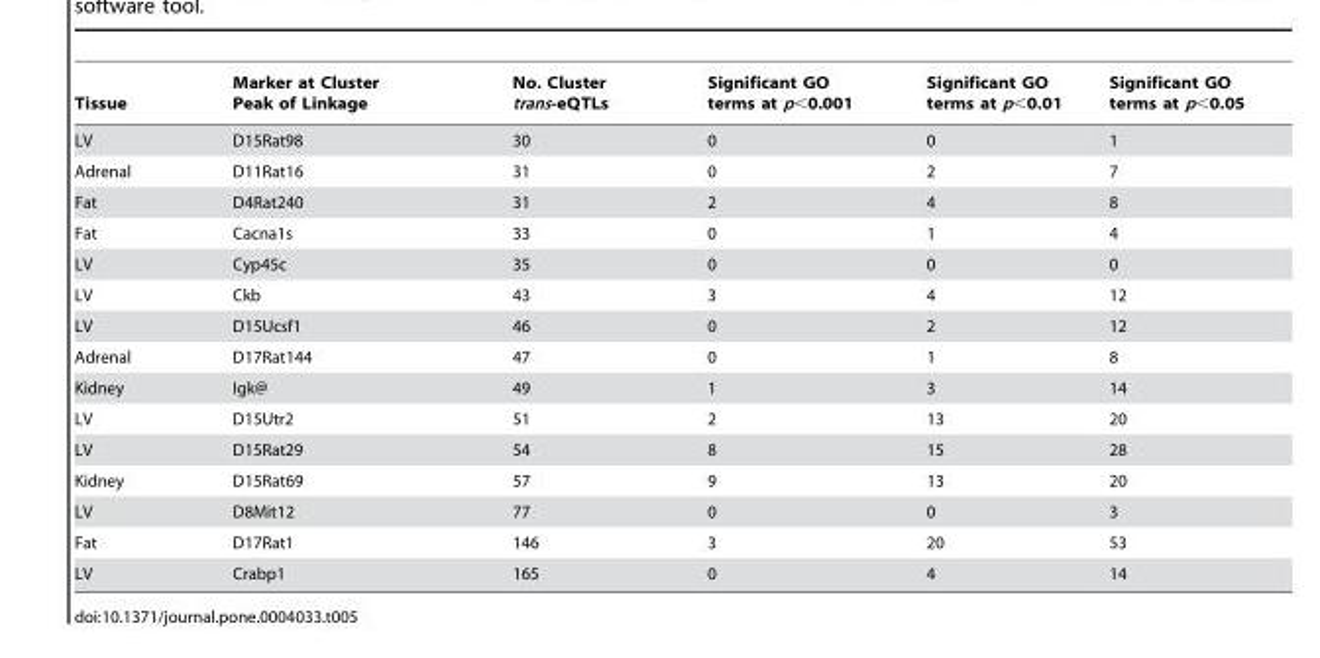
<table><thead><tr><td>Tissue</td><td>Marker at Cluster Peak of Linkage</td><td>No. Cluster trans-eQTLs</td><td>Significant GO terms at p&lt;0.001</td><td>Significant GO terms at p&lt;0.01</td><td>Significant GO terms at p&lt;0.05</td></tr></thead><tbody><tr><td>LV</td><td>D15Rat98</td><td>30</td><td>0</td><td>0</td><td>1</td></tr><tr><td>Adrenal</td><td>D11Rat16</td><td>31</td><td>0</td><td>2</td><td>7</td></tr><tr><td>Fat</td><td>D4Rat240</td><td>31</td><td>2</td><td>4</td><td>8</td></tr><tr><td>Fat</td><td>Cacna1s</td><td>33</td><td>0</td><td>1</td><td>4</td></tr><tr><td>LV</td><td>Cyp45c</td><td>35</td><td>0</td><td>0</td><td>0</td></tr><tr><td>LV</td><td>Ckb</td><td>43</td><td>3</td><td>4</td><td>12</td></tr><tr><td>LV</td><td>D15Ucsf1</td><td>46</td><td>0</td><td>2</td><td>12</td></tr><tr><td>Adrenal</td><td>D17Rat144</td><td>47</td><td>0</td><td>1</td><td>8</td></tr><tr><td>Kidney</td><td>Igk@</td><td>49</td><td>1</td><td>3</td><td>14</td></tr><tr><td>LV</td><td>D15Utr2</td><td>51</td><td>2</td><td>13</td><td>20</td></tr><tr><td>LV</td><td>D15Rat29</td><td>54</td><td>8</td><td>15</td><td>28</td></tr><tr><td>Kidney</td><td>D15Rat69</td><td>57</td><td>9</td><td>13</td><td>20</td></tr><tr><td>LV</td><td>D8Mit12</td><td>77</td><td>0</td><td>0</td><td>3</td></tr><tr><td>Fat</td><td>D17Rat1</td><td>146</td><td>3</td><td>20</td><td>53</td></tr><tr><td>LV</td><td>Crabp1</td><td>165</td><td>0</td><td>4</td><td>14</td></tr></tbody></table>